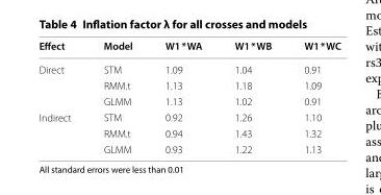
<table><thead><tr><td>Effect</td><td>Model</td><td>W1 * WA</td><td>W1 * WB</td><td>W1 * WC</td></tr></thead><tbody><tr><td rowspan="3">Direct</td><td>STM</td><td>1.09</td><td>1.04</td><td>0.91</td></tr><tr><td>RMM.t</td><td>1.13</td><td>1.18</td><td>1.09</td></tr><tr><td>GLMM</td><td>1.13</td><td>1.02</td><td>0.91</td></tr><tr><td rowspan="3">Indirect</td><td>STM</td><td>0.92</td><td>1.26</td><td>1.10</td></tr><tr><td>RMM.t</td><td>0.94</td><td>1.43</td><td>1.32</td></tr><tr><td>GLMM</td><td>0.93</td><td>1.22</td><td>1.13</td></tr></tbody></table>